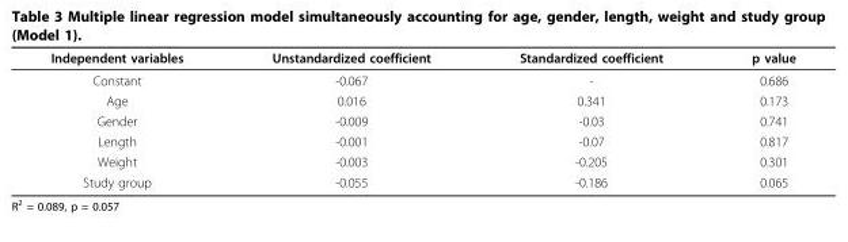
<table><thead><tr><td>Independent variables</td><td>Unstandardized coefficient</td><td>Standardized coefficient</td><td>p value</td></tr></thead><tbody><tr><td>Constant</td><td>-0.067</td><td>-</td><td>0.686</td></tr><tr><td>Age</td><td>0.016</td><td>0.341</td><td>0.173</td></tr><tr><td>Gender</td><td>-0.009</td><td>-0.03</td><td>0.741</td></tr><tr><td>Length</td><td>-0.001</td><td>-0.07</td><td>0.817</td></tr><tr><td>Weight</td><td>-0.003</td><td>-0.205</td><td>0.301</td></tr><tr><td>Study group</td><td>-0.055</td><td>-0.186</td><td>0.065</td></tr></tbody></table>